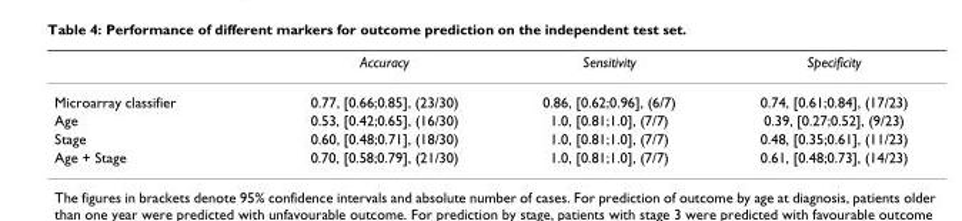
<table><thead><tr><td></td><td>Accuracy</td><td>Sensitivity</td><td>Specificity</td></tr></thead><tbody><tr><td>Microarray classifier</td><td>0.77, [0.66;0.85], (23/30)</td><td>0.86, [0.62;0.96], (6/7)</td><td>0.74, [0.61;0.84], (17/23)</td></tr><tr><td>Age</td><td>0.53, [0.42;0.65], (16/30)</td><td>1.0, [0.81;1.0], (7/7)</td><td>0.39, [0.27;0.52], (9/23)</td></tr><tr><td>Stage</td><td>0.60, [0.48;0.71], (18/30)</td><td>1.0, [0.81;1.0], (7/7)</td><td>0.48, [0.35;0.61], (11/23)</td></tr><tr><td>Age + Stage</td><td>0.70, [0.58;0.79], (21/30)</td><td>1.0, [0.81;1.0], (7/7)</td><td>0.61, [0.48;0.73], (14/23)</td></tr></tbody></table>